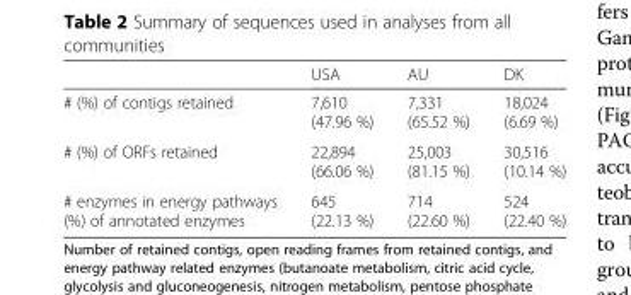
<table><thead><tr><td></td><td>USA</td><td>AU</td><td>DK</td></tr></thead><tbody><tr><td># (%) of contigs retained</td><td>7,610 (47.96 %)</td><td>7,331 (65.52 %)</td><td>18,024 (6.69 %)</td></tr><tr><td># (%) of ORFs retained</td><td>22,894 (66.06 %)</td><td>25,003 (81.15 %)</td><td>30,516 (10.14 %)</td></tr><tr><td># enzymes in energy pathways (%) of annotated enzymes</td><td>645 (22.13 %)</td><td>714 (22.60 %)</td><td>524 (22.40 %)</td></tr></tbody></table>